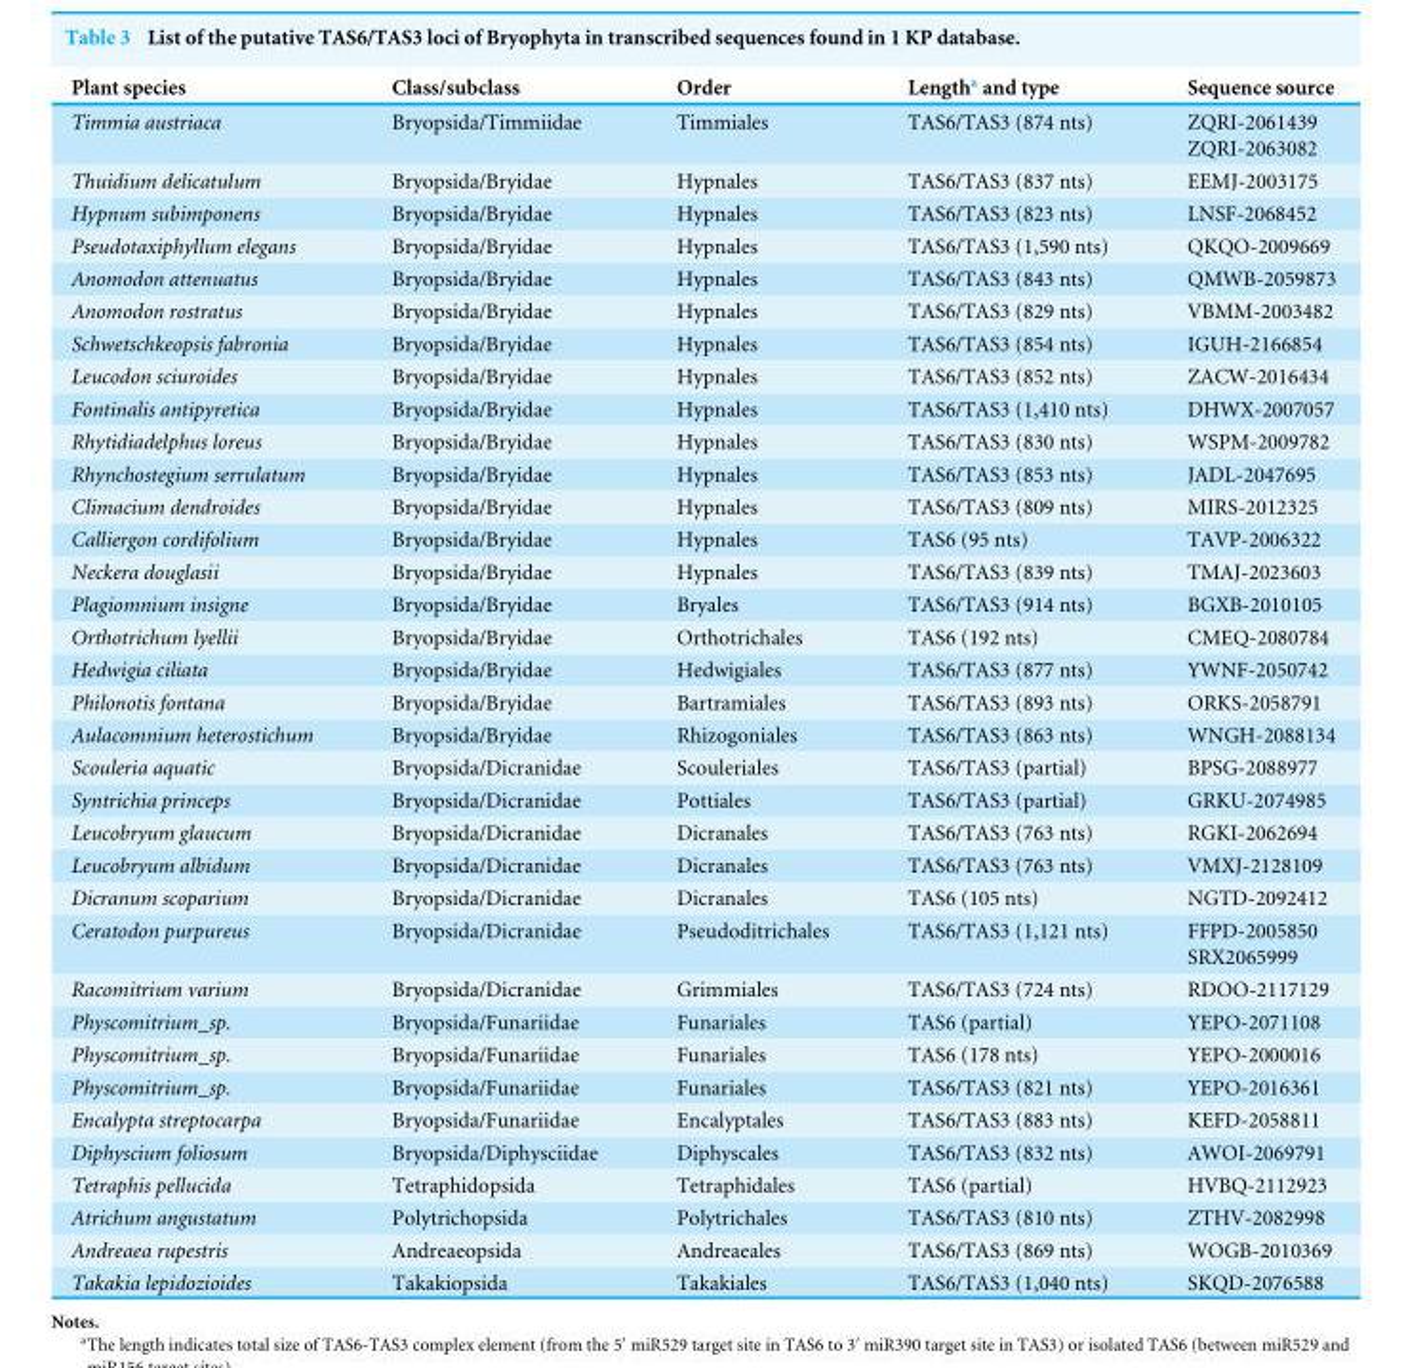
<table><thead><tr><td>Plant species</td><td>Class/subclass</td><td>Order</td><td>Length<sup>a</sup> and type</td><td>Sequence source</td></tr></thead><tbody><tr><td>Timmia austriaca</td><td>Bryopsida/Timmiidae</td><td>Timmiales</td><td>TAS6/TAS3 (874 nts)</td><td>ZQRI-2061439 ZQRI-2063082</td></tr><tr><td>Thuidium delicatulum</td><td>Bryopsida/Bryidae</td><td>Hypnales</td><td>TAS6/TAS3 (837 nts)</td><td>EEMJ-2003175</td></tr><tr><td>Hypnum subimponens</td><td>Bryopsida/Bryidae</td><td>Hypnales</td><td>TAS6/TAS3 (823 nts)</td><td>LNSF-2068452</td></tr><tr><td>Pseudotaxiphyllum elegans</td><td>Bryopsida/Bryidae</td><td>Hypnales</td><td>TAS6/TAS3 (1,590 nts)</td><td>QKQO-2009669</td></tr><tr><td>Anomodon attenuatus</td><td>Bryopsida/Bryidae</td><td>Hypnales</td><td>TAS6/TAS3 (843 nts)</td><td>QMWB-2059873</td></tr><tr><td>Anomodon rostratus</td><td>Bryopsida/Bryidae</td><td>Hypnales</td><td>TAS6/TAS3 (829 nts)</td><td>VBMM-2003482</td></tr><tr><td>Schwetschkeopsis fabronia</td><td>Bryopsida/Bryidae</td><td>Hypnales</td><td>TAS6/TAS3 (854 nts)</td><td>IGUH-2166854</td></tr><tr><td>Leucodon sciuroides</td><td>Bryopsida/Bryidae</td><td>Hypnales</td><td>TAS6/TAS3 (852 nts)</td><td>ZACW-2016434</td></tr><tr><td>Fontinalis antipyretica</td><td>Bryopsida/Bryidae</td><td>Hypnales</td><td>TAS6/TAS3 (1,410 nts)</td><td>DHWX-2007057</td></tr><tr><td>Rhytidiadelphus loreus</td><td>Bryopsida/Bryidae</td><td>Hypnales</td><td>TAS6/TAS3 (830 nts)</td><td>WSPM-2009782</td></tr><tr><td>Rhynchostegium serrulatum</td><td>Bryopsida/Bryidae</td><td>Hypnales</td><td>TAS6/TAS3 (853 nts)</td><td>JADL-2047695</td></tr><tr><td>Climacium dendroides</td><td>Bryopsida/Bryidae</td><td>Hypnales</td><td>TAS6/TAS3 (809 nts)</td><td>MIRS-2012325</td></tr><tr><td>Calliergon cordifolium</td><td>Bryopsida/Bryidae</td><td>Hypnales</td><td>TAS6 (95 nts)</td><td>TAVP-2006322</td></tr><tr><td>Neckera douglasii</td><td>Bryopsida/Bryidae</td><td>Hypnales</td><td>TAS6/TAS3 (839 nts)</td><td>TMAJ-2023603</td></tr><tr><td>Plagiomnium insigne</td><td>Bryopsida/Bryidae</td><td>Bryales</td><td>TAS6/TAS3 (914 nts)</td><td>BGXB-2010105</td></tr><tr><td>Orthotrichum lyellii</td><td>Bryopsida/Bryidae</td><td>Orthotrichales</td><td>TAS6 (192 nts)</td><td>CMEQ-2080784</td></tr><tr><td>Hedwigia ciliata</td><td>Bryopsida/Bryidae</td><td>Hedwigiales</td><td>TAS6/TAS3 (877 nts)</td><td>YWNF-2050742</td></tr><tr><td>Philonotis fontana</td><td>Bryopsida/Bryidae</td><td>Bartramiales</td><td>TAS6/TAS3 (893 nts)</td><td>ORKS-2058791</td></tr><tr><td>Aulacomnium heterostichum</td><td>Bryopsida/Bryidae</td><td>Rhizogoniales</td><td>TAS6/TAS3 (863 nts)</td><td>WNGH-2088134</td></tr><tr><td>Scouleria aquatic</td><td>Bryopsida/Dicranidae</td><td>Scouleriales</td><td>TAS6/TAS3 (partial)</td><td>BPSG-2088977</td></tr><tr><td>Syntrichia princeps</td><td>Bryopsida/Dicranidae</td><td>Pottiales</td><td>TAS6/TAS3 (partial)</td><td>GRKU-2074985</td></tr><tr><td>Leucobryum glaucum</td><td>Bryopsida/Dicranidae</td><td>Dicranales</td><td>TAS6/TAS3 (763 nts)</td><td>RGKI-2062694</td></tr><tr><td>Leucobryum albidum</td><td>Bryopsida/Dicranidae</td><td>Dicranales</td><td>TAS6/TAS3 (763 nts)</td><td>VMXJ-2128109</td></tr><tr><td>Dicranum scoparium</td><td>Bryopsida/Dicranidae</td><td>Dicranales</td><td>TAS6 (105 nts)</td><td>NGTD-2092412</td></tr><tr><td>Ceratodon purpureus</td><td>Bryopsida/Dicranidae</td><td>Pseudoditrichales</td><td>TAS6/TAS3 (1,121 nts)</td><td>FFPD-2005850 SRX2065999</td></tr><tr><td>Racomitrium varium</td><td>Bryopsida/Dicranidae</td><td>Grimmiales</td><td>TAS6/TAS3 (724 nts)</td><td>RDOO-2117129</td></tr><tr><td>Physcomitrium_sp.</td><td>Bryopsida/Funariidae</td><td>Funariales</td><td>TAS6 (partial)</td><td>YEPO-2071108</td></tr><tr><td>Physcomitrium_sp.</td><td>Bryopsida/Funariidae</td><td>Funariales</td><td>TAS6 (178 nts)</td><td>YEPO-2000016</td></tr><tr><td>Physcomitrium_sp.</td><td>Bryopsida/Funariidae</td><td>Funariales</td><td>TAS6/TAS3 (821 nts)</td><td>YEPO-2016361</td></tr><tr><td>Encalypta streptocarpa</td><td>Bryopsida/Funariidae</td><td>Encalyptales</td><td>TAS6/TAS3 (883 nts)</td><td>KEFD-2058811</td></tr><tr><td>Diphyscium foliosum</td><td>Bryopsida/Diphysciidae</td><td>Diphyscales</td><td>TAS6/TAS3 (832 nts)</td><td>AWOI-2069791</td></tr><tr><td>Tetraphis pellucida</td><td>Tetraphidopsida</td><td>Tetraphidales</td><td>TAS6 (partial)</td><td>HVBQ-2112923</td></tr><tr><td>Atrichum angustatum</td><td>Polytrichopsida</td><td>Polytrichales</td><td>TAS6/TAS3 (810 nts)</td><td>ZTHV-2082998</td></tr><tr><td>Andreaea rupestris</td><td>Andreaeopsida</td><td>Andreaeales</td><td>TAS6/TAS3 (869 nts)</td><td>WOGB-2010369</td></tr><tr><td>Takakia lepidozioides</td><td>Takakiopsida</td><td>Takakiales</td><td>TAS6/TAS3 (1,040 nts)</td><td>SKQD-2076588</td></tr></tbody></table>